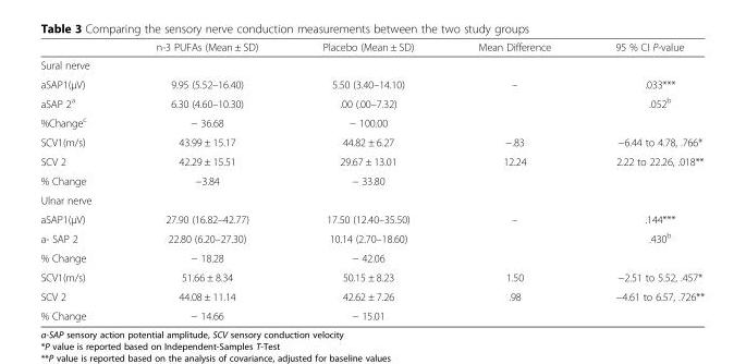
<table><thead><tr><td></td><td>n-3 PUFAs (Mean ± SD)</td><td>Placebo (Mean ± SD)</td><td>Mean Difference</td><td>95 % CI P-value</td></tr></thead><tbody><tr><td colspan="5">Sural nerve</td></tr><tr><td>aSAP1(μV)</td><td>9.95 (5.52–16.40)</td><td>5.50 (3.40–14.10)</td><td>–</td><td>.033***</td></tr><tr><td>aSAP 2<sup>a</sup></td><td>6.30 (4.60–10.30)</td><td>.00 (.00–7.32)</td><td></td><td>.052<sup>b</sup></td></tr><tr><td>%Change<sup>c</sup></td><td>− 36.68</td><td>− 100.00</td><td></td><td></td></tr><tr><td>SCV1(m/s)</td><td>43.99 ± 15.17</td><td>44.82 ± 6.27</td><td>−.83</td><td>−6.44 to 4.78, .766*</td></tr><tr><td>SCV 2</td><td>42.29 ± 15.51</td><td>29.67 ± 13.01</td><td>12.24</td><td>2.22 to 22.26, .018**</td></tr><tr><td>% Change</td><td>−3.84</td><td>− 33.80</td><td></td><td></td></tr><tr><td colspan="5">Ulnar nerve</td></tr><tr><td>aSAP1(μV)</td><td>27.90 (16.82–42.77)</td><td>17.50 (12.40–35.50)</td><td>–</td><td>.144***</td></tr><tr><td>a- SAP 2</td><td>22.80 (6.20–27.30)</td><td>10.14 (2.70–18.60)</td><td></td><td>.430<sup>b</sup></td></tr><tr><td>% Change</td><td>− 18.28</td><td>− 42.06</td><td></td><td></td></tr><tr><td>SCV1(m/s)</td><td>51.66 ± 8.34</td><td>50.15 ± 8.23</td><td>1.50</td><td>−2.51 to 5.52, .457*</td></tr><tr><td>SCV 2</td><td>44.08 ± 11.14</td><td>42.62 ± 7.26</td><td>.98</td><td>−4.61 to 6.57, .726**</td></tr><tr><td>% Change</td><td>− 14.66</td><td>− 15.01</td><td></td><td></td></tr></tbody></table>